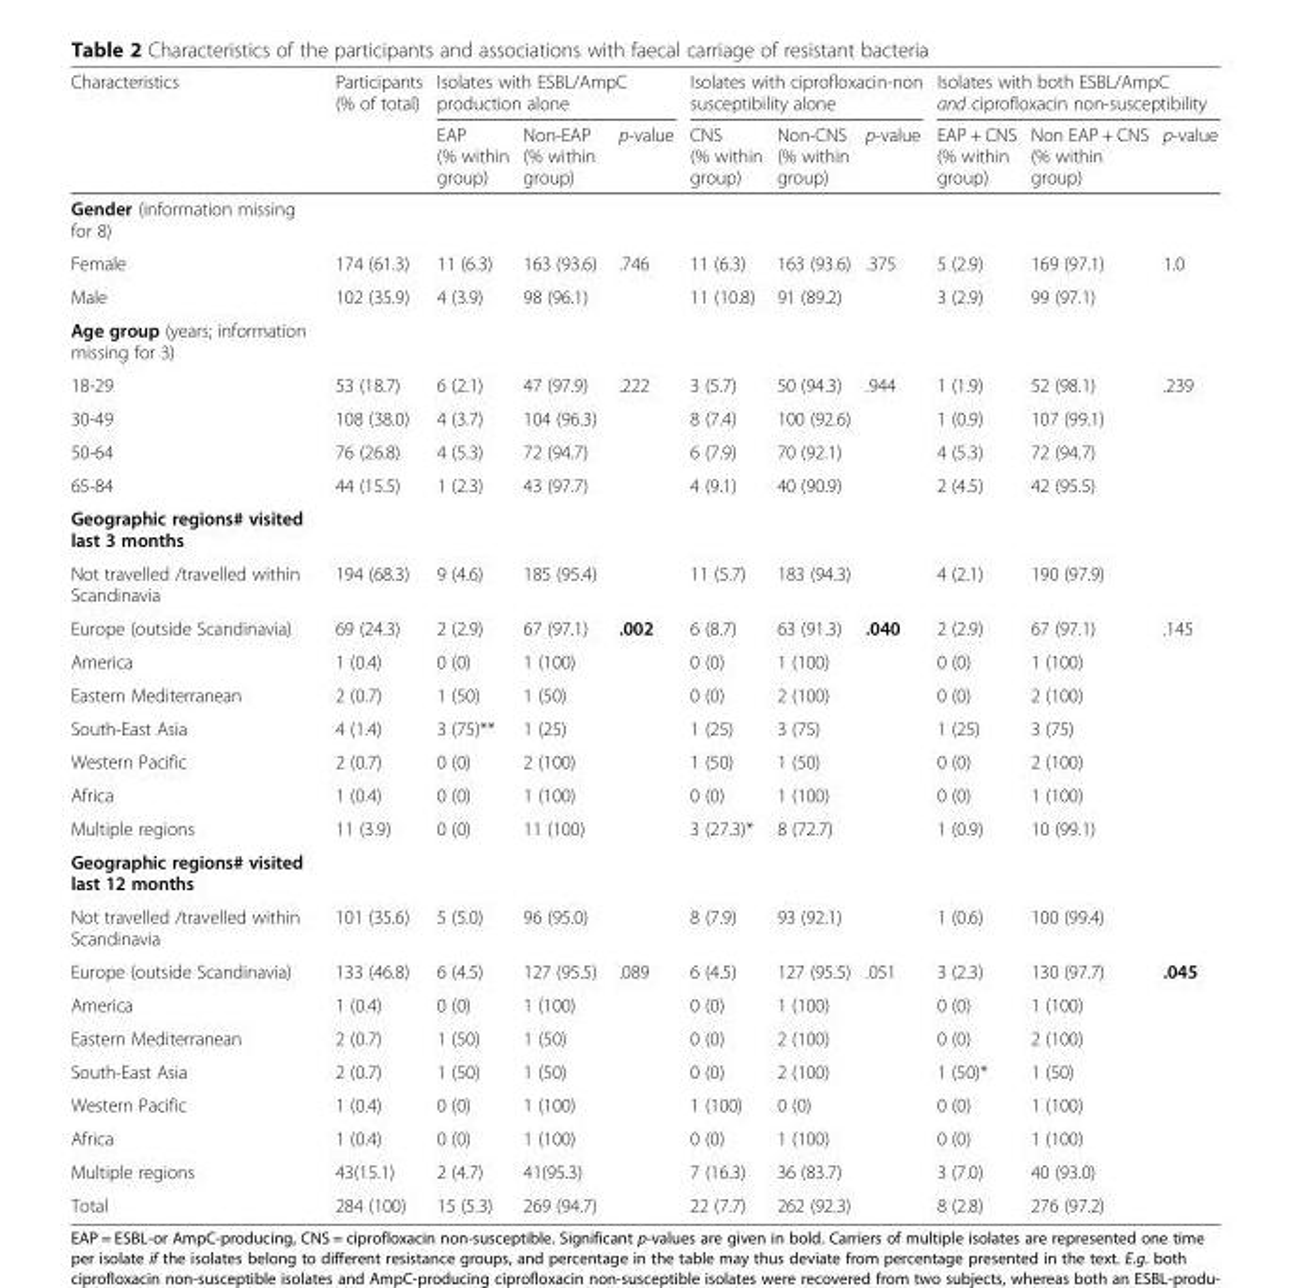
<table><thead><tr><td rowspan="2">Characteristics</td><td rowspan="2">Participants (% of total)</td><td colspan="3">Isolates with ESBL/AmpC production alone</td><td colspan="3">Isolates with ciprofloxacin-non susceptibility alone</td><td colspan="3">Isolates with both ESBL/AmpC and ciprofloxacin non-susceptibility</td></tr><tr><td>EAP (% within group)</td><td>Non-EAP (% within group)</td><td>p-value</td><td>CNS (% within group)</td><td>Non-CNS (% within group)</td><td>p-value</td><td>EAP + CNS (% within group)</td><td>Non EAP + CNS (% within group)</td><td>p-value</td></tr></thead><tbody><tr><td colspan="11">Gender (information missing for 8)</td></tr><tr><td>Female</td><td>174 (61.3)</td><td>11 (6.3)</td><td>163 (93.6)</td><td>.746</td><td>11 (6.3)</td><td>163 (93.6)</td><td>.375</td><td>5 (2.9)</td><td>169 (97.1)</td><td>1.0</td></tr><tr><td>Male</td><td>102 (35.9)</td><td>4 (3.9)</td><td>98 (96.1)</td><td></td><td>11 (10.8)</td><td>91 (89.2)</td><td></td><td>3 (2.9)</td><td>99 (97.1)</td><td></td></tr><tr><td colspan="11">Age group (years; information missing for 3)</td></tr><tr><td>18-29</td><td>53 (18.7)</td><td>6 (2.1)</td><td>47 (97.9)</td><td>.222</td><td>3 (5.7)</td><td>50 (94.3)</td><td>.944</td><td>1 (1.9)</td><td>52 (98.1)</td><td>.239</td></tr><tr><td>30-49</td><td>108 (38.0)</td><td>4 (3.7)</td><td>104 (96.3)</td><td></td><td>8 (7.4)</td><td>100 (92.6)</td><td></td><td>1 (0.9)</td><td>107 (99.1)</td><td></td></tr><tr><td>50-64</td><td>76 (26.8)</td><td>4 (5.3)</td><td>72 (94.7)</td><td></td><td>6 (7.9)</td><td>70 (92.1)</td><td></td><td>4 (5.3)</td><td>72 (94.7)</td><td></td></tr><tr><td>65-84</td><td>44 (15.5)</td><td>1 (2.3)</td><td>43 (97.7)</td><td></td><td>4 (9.1)</td><td>40 (90.9)</td><td></td><td>2 (4.5)</td><td>42 (95.5)</td><td></td></tr><tr><td colspan="11">Geographic regions# visited last 3 months</td></tr><tr><td>Not travelled /travelled within Scandinavia</td><td>194 (68.3)</td><td>9 (4.6)</td><td>185 (95.4)</td><td></td><td>11 (5.7)</td><td>183 (94.3)</td><td></td><td>4 (2.1)</td><td>190 (97.9)</td><td></td></tr><tr><td>Europe (outside Scandinavia)</td><td>69 (24.3)</td><td>2 (2.9)</td><td>67 (97.1)</td><td>.002</td><td>6 (8.7)</td><td>63 (91.3)</td><td>.040</td><td>2 (2.9)</td><td>67 (97.1)</td><td>.145</td></tr><tr><td>America</td><td>1 (0.4)</td><td>0 (0)</td><td>1 (100)</td><td></td><td>0 (0)</td><td>1 (100)</td><td></td><td>0 (0)</td><td>1 (100)</td><td></td></tr><tr><td>Eastern Mediterranean</td><td>2 (0.7)</td><td>1 (50)</td><td>1 (50)</td><td></td><td>0 (0)</td><td>2 (100)</td><td></td><td>0 (0)</td><td>2 (100)</td><td></td></tr><tr><td>South-East Asia</td><td>4 (1.4)</td><td>3 (75)**</td><td>1 (25)</td><td></td><td>1 (25)</td><td>3 (75)</td><td></td><td>1 (25)</td><td>3 (75)</td><td></td></tr><tr><td>Western Pacific</td><td>2 (0.7)</td><td>0 (0)</td><td>2 (100)</td><td></td><td>1 (50)</td><td>1 (50)</td><td></td><td>0 (0)</td><td>2 (100)</td><td></td></tr><tr><td>Africa</td><td>1 (0.4)</td><td>0 (0)</td><td>1 (100)</td><td></td><td>0 (0)</td><td>1 (100)</td><td></td><td>0 (0)</td><td>1 (100)</td><td></td></tr><tr><td>Multiple regions</td><td>11 (3.9)</td><td>0 (0)</td><td>11 (100)</td><td></td><td>3 (27.3)*</td><td>8 (72.7)</td><td></td><td>1 (0.9)</td><td>10 (99.1)</td><td></td></tr><tr><td colspan="11">Geographic regions# visited last 12 months</td></tr><tr><td>Not travelled /travelled within Scandinavia</td><td>101 (35.6)</td><td>5 (5.0)</td><td>96 (95.0)</td><td></td><td>8 (7.9)</td><td>93 (92.1)</td><td></td><td>1 (0.6)</td><td>100 (99.4)</td><td></td></tr><tr><td>Europe (outside Scandinavia)</td><td>133 (46.8)</td><td>6 (4.5)</td><td>127 (95.5)</td><td>.089</td><td>6 (4.5)</td><td>127 (95.5)</td><td>.051</td><td>3 (2.3)</td><td>130 (97.7)</td><td>.045</td></tr><tr><td>America</td><td>1 (0.4)</td><td>0 (0)</td><td>1 (100)</td><td></td><td>0 (0)</td><td>1 (100)</td><td></td><td>0 (0)</td><td>1 (100)</td><td></td></tr><tr><td>Eastern Mediterranean</td><td>2 (0.7)</td><td>1 (50)</td><td>1 (50)</td><td></td><td>0 (0)</td><td>2 (100)</td><td></td><td>0 (0)</td><td>2 (100)</td><td></td></tr><tr><td>South-East Asia</td><td>2 (0.7)</td><td>1 (50)</td><td>1 (50)</td><td></td><td>0 (0)</td><td>2 (100)</td><td></td><td>1 (50)*</td><td>1 (50)</td><td></td></tr><tr><td>Western Pacific</td><td>1 (0.4)</td><td>0 (0)</td><td>1 (100)</td><td></td><td>1 (100)</td><td>0 (0)</td><td></td><td>0 (0)</td><td>1 (100)</td><td></td></tr><tr><td>Africa</td><td>1 (0.4)</td><td>0 (0)</td><td>1 (100)</td><td></td><td>0 (0)</td><td>1 (100)</td><td></td><td>0 (0)</td><td>1 (100)</td><td></td></tr><tr><td>Multiple regions</td><td>43(15.1)</td><td>2 (4.7)</td><td>41(95.3)</td><td></td><td>7 (16.3)</td><td>36 (83.7)</td><td></td><td>3 (7.0)</td><td>40 (93.0)</td><td></td></tr><tr><td>Total</td><td>284 (100)</td><td>15 (5.3)</td><td>269 (94.7)</td><td></td><td>22 (7.7)</td><td>262 (92.3)</td><td></td><td>8 (2.8)</td><td>276 (97.2)</td><td></td></tr></tbody></table>